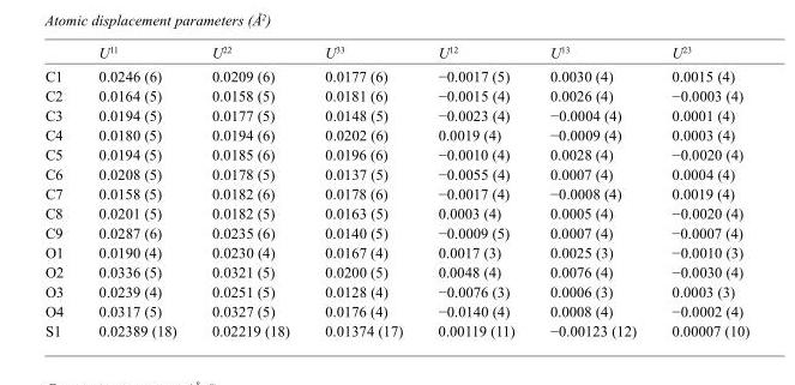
<table><thead><tr><td></td><td>U<sup>11</sup></td><td>U<sup>22</sup></td><td>U<sup>33</sup></td><td>U<sup>12</sup></td><td>U<sup>13</sup></td><td>U<sup>23</sup></td></tr></thead><tbody><tr><td>C1</td><td>0.0246 (6)</td><td>0.0209 (6)</td><td>0.0177 (6)</td><td>−0.0017 (5)</td><td>0.0030 (4)</td><td>0.0015 (4)</td></tr><tr><td>C2</td><td>0.0164 (5)</td><td>0.0158 (5)</td><td>0.0181 (6)</td><td>−0.0015 (4)</td><td>0.0026 (4)</td><td>−0.0003 (4)</td></tr><tr><td>C3</td><td>0.0194 (5)</td><td>0.0177 (5)</td><td>0.0148 (5)</td><td>−0.0023 (4)</td><td>−0.0004 (4)</td><td>0.0001 (4)</td></tr><tr><td>C4</td><td>0.0180 (5)</td><td>0.0194 (6)</td><td>0.0202 (6)</td><td>0.0019 (4)</td><td>−0.0009 (4)</td><td>0.0003 (4)</td></tr><tr><td>C5</td><td>0.0194 (5)</td><td>0.0185 (6)</td><td>0.0196 (6)</td><td>−0.0010 (4)</td><td>0.0028 (4)</td><td>−0.0020 (4)</td></tr><tr><td>C6</td><td>0.0208 (5)</td><td>0.0178 (5)</td><td>0.0137 (5)</td><td>−0.0055 (4)</td><td>0.0007 (4)</td><td>0.0004 (4)</td></tr><tr><td>C7</td><td>0.0158 (5)</td><td>0.0182 (6)</td><td>0.0178 (6)</td><td>−0.0017 (4)</td><td>−0.0008 (4)</td><td>0.0019 (4)</td></tr><tr><td>C8</td><td>0.0201 (5)</td><td>0.0182 (5)</td><td>0.0163 (5)</td><td>0.0003 (4)</td><td>0.0005 (4)</td><td>−0.0020 (4)</td></tr><tr><td>C9</td><td>0.0287 (6)</td><td>0.0235 (6)</td><td>0.0140 (5)</td><td>−0.0009 (5)</td><td>0.0007 (4)</td><td>−0.0007 (4)</td></tr><tr><td>O1</td><td>0.0190 (4)</td><td>0.0230 (4)</td><td>0.0167 (4)</td><td>0.0017 (3)</td><td>0.0025 (3)</td><td>−0.0010 (3)</td></tr><tr><td>O2</td><td>0.0336 (5)</td><td>0.0321 (5)</td><td>0.0200 (5)</td><td>0.0048 (4)</td><td>0.0076 (4)</td><td>−0.0030 (4)</td></tr><tr><td>O3</td><td>0.0239 (4)</td><td>0.0251 (5)</td><td>0.0128 (4)</td><td>−0.0076 (3)</td><td>0.0006 (3)</td><td>0.0003 (3)</td></tr><tr><td>O4</td><td>0.0317 (5)</td><td>0.0327 (5)</td><td>0.0176 (4)</td><td>−0.0140 (4)</td><td>0.0008 (4)</td><td>−0.0002 (4)</td></tr><tr><td>S1</td><td>0.02389 (18)</td><td>0.02219 (18)</td><td>0.01374 (17)</td><td>0.00119 (11)</td><td>−0.00123 (12)</td><td>0.00007 (10)</td></tr></tbody></table>